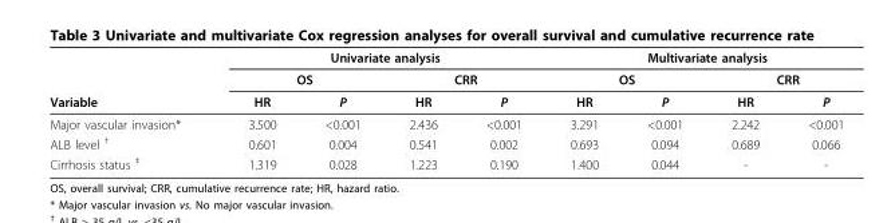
<table><thead><tr><td rowspan="3">Variable</td><td colspan="4">Univariate analysis</td><td colspan="4">Multivariate analysis</td></tr><tr><td colspan="2">OS</td><td colspan="2">CRR</td><td colspan="2">OS</td><td colspan="2">CRR</td></tr><tr><td>HR</td><td>P</td><td>HR</td><td>P</td><td>HR</td><td>P</td><td>HR</td><td>P</td></tr></thead><tbody><tr><td>Major vascular invasion*</td><td>3.500</td><td>&lt;0.001</td><td>2.436</td><td>&lt;0.001</td><td>3.291</td><td>&lt;0.001</td><td>2.242</td><td>&lt;0.001</td></tr><tr><td>ALB level <sup>†</sup></td><td>0.601</td><td>0.004</td><td>0.541</td><td>0.002</td><td>0.693</td><td>0.094</td><td>0.689</td><td>0.066</td></tr><tr><td>Cirrhosis status <sup>‡</sup></td><td>1.319</td><td>0.028</td><td>1.223</td><td>0.190</td><td>1.400</td><td>0.044</td><td>-</td><td>-</td></tr></tbody></table>